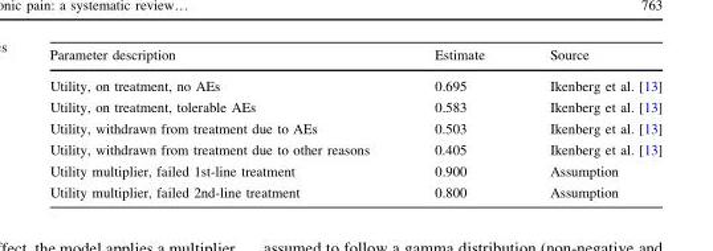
<table><thead><tr><td>Parameter description</td><td>Estimate</td><td>Source</td></tr></thead><tbody><tr><td>Utility, on treatment, no AEs</td><td>0.695</td><td>Ikenberg et al. [13]</td></tr><tr><td>Utility, on treatment, tolerable AEs</td><td>0.583</td><td>Ikenberg et al. [13]</td></tr><tr><td>Utility, withdrawn from treatment due to AEs</td><td>0.503</td><td>Ikenberg et al. [13]</td></tr><tr><td>Utility, withdrawn from treatment due to other reasons</td><td>0.405</td><td>Ikenberg et al. [13]</td></tr><tr><td>Utility multiplier, failed 1st-line treatment</td><td>0.900</td><td>Assumption</td></tr><tr><td>Utility multiplier, failed 2nd-line treatment</td><td>0.800</td><td>Assumption</td></tr></tbody></table>